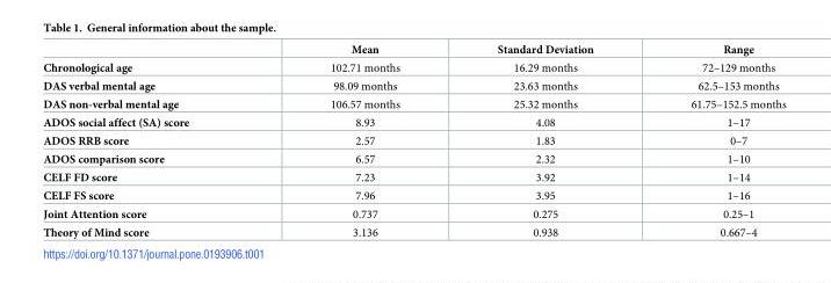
<table><thead><tr><td></td><td>Mean</td><td>Standard Deviation</td><td>Range</td></tr></thead><tbody><tr><td>Chronological age</td><td>102.71 months</td><td>16.29 months</td><td>72–129 months</td></tr><tr><td>DAS verbal mental age</td><td>98.09 months</td><td>23.63 months</td><td>62.5–153 months</td></tr><tr><td>DAS non-verbal mental age</td><td>106.57 months</td><td>25.32 months</td><td>61.75–152.5 months</td></tr><tr><td>ADOS social affect (SA) score</td><td>8.93</td><td>4.08</td><td>1–17</td></tr><tr><td>ADOS RRB score</td><td>2.57</td><td>1.83</td><td>0–7</td></tr><tr><td>ADOS comparison score</td><td>6.57</td><td>2.32</td><td>1–10</td></tr><tr><td>CELF FD score</td><td>7.23</td><td>3.92</td><td>1–14</td></tr><tr><td>CELF FS score</td><td>7.96</td><td>3.95</td><td>1–16</td></tr><tr><td>Joint Attention score</td><td>0.737</td><td>0.275</td><td>0.25–1</td></tr><tr><td>Theory of Mind score</td><td>3.136</td><td>0.938</td><td>0.667–4</td></tr></tbody></table>